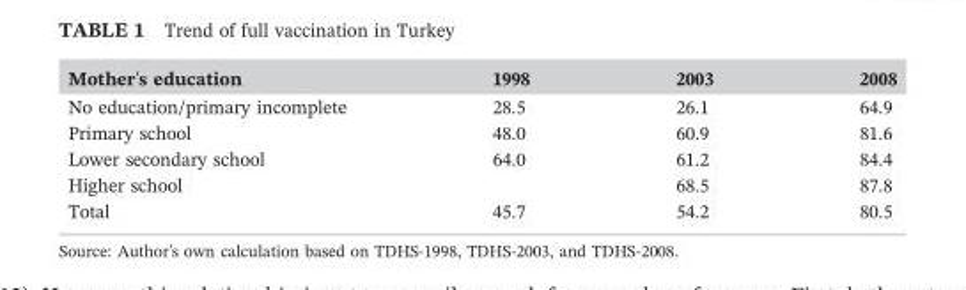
<table><thead><tr><td>Mother&#x27;s education</td><td>1998</td><td>2003</td><td>2008</td></tr></thead><tbody><tr><td>No education/primary incomplete</td><td>28.5</td><td>26.1</td><td>64.9</td></tr><tr><td>Primary school</td><td>48.0</td><td>60.9</td><td>81.6</td></tr><tr><td>Lower secondary school</td><td>64.0</td><td>61.2</td><td>84.4</td></tr><tr><td>Higher school</td><td></td><td>68.5</td><td>87.8</td></tr><tr><td>Total</td><td>45.7</td><td>54.2</td><td>80.5</td></tr></tbody></table>